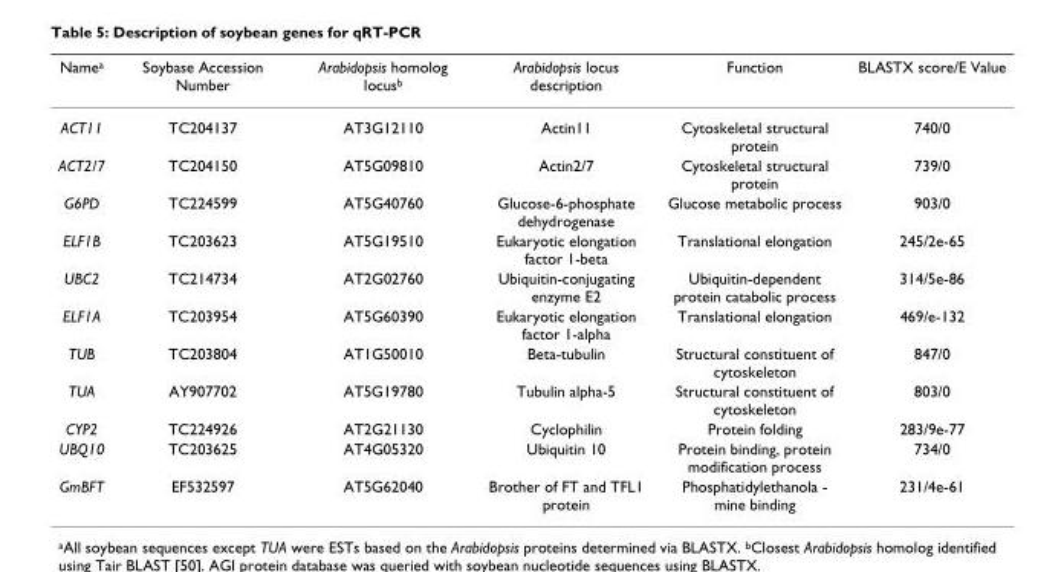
<table><thead><tr><td>Name<sup>a</sup></td><td>Soybase Accession Number</td><td>Arabidopsis homolog locus<sup>b</sup></td><td>Arabidopsis locus description</td><td>Function</td><td>BLASTX score/E Value</td></tr></thead><tbody><tr><td>ACT11</td><td>TC204137</td><td>AT3G12110</td><td>Actin11</td><td>Cytoskeletal structural protein</td><td>740/0</td></tr><tr><td>ACT2/7</td><td>TC204150</td><td>AT5G09810</td><td>Actin2/7</td><td>Cytoskeletal structural protein</td><td>739/0</td></tr><tr><td>G6PD</td><td>TC224599</td><td>AT5G40760</td><td>Glucose-6-phosphate dehydrogenase</td><td>Glucose metabolic process</td><td>903/0</td></tr><tr><td>ELF1B</td><td>TC203623</td><td>AT5G19510</td><td>Eukaryotic elongation factor 1-beta</td><td>Translational elongation</td><td>245/2e-65</td></tr><tr><td>UBC2</td><td>TC214734</td><td>AT2G02760</td><td>Ubiquitin-conjugating enzyme E2</td><td>Ubiquitin-dependent protein catabolic process</td><td>314/5e-86</td></tr><tr><td>ELF1A</td><td>TC203954</td><td>AT5G60390</td><td>Eukaryotic elongation factor 1-alpha</td><td>Translational elongation</td><td>469/e-132</td></tr><tr><td>TUB</td><td>TC203804</td><td>AT1G50010</td><td>Beta-tubulin</td><td>Structural constituent of cytoskeleton</td><td>847/0</td></tr><tr><td>TUA</td><td>AY907702</td><td>AT5G19780</td><td>Tubulin alpha-5</td><td>Structural constituent of cytoskeleton</td><td>803/0</td></tr><tr><td>CYP2</td><td>TC224926</td><td>AT2G21130</td><td>Cyclophilin</td><td>Protein folding</td><td>283/9e-77</td></tr><tr><td>UBQ10</td><td>TC203625</td><td>AT4G05320</td><td>Ubiquitin 10</td><td>Protein binding, protein modification process</td><td>734/0</td></tr><tr><td>GmBFT</td><td>EF532597</td><td>AT5G62040</td><td>Brother of FT and TFL1 protein</td><td>Phosphatidylethanola - mine binding</td><td>231/4e-61</td></tr></tbody></table>